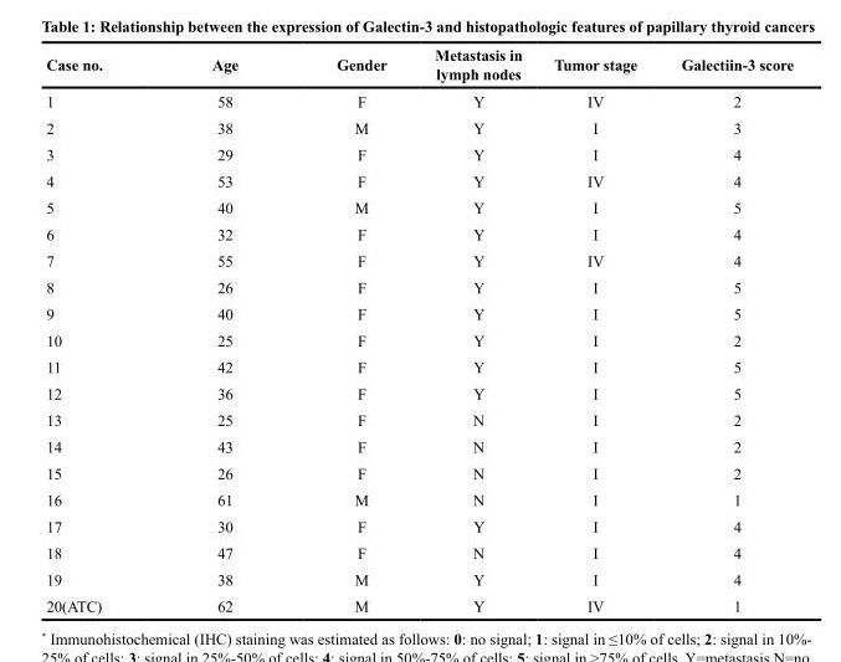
<table><thead><tr><td>Case no.</td><td>Age</td><td>Gender</td><td>Metastasis in lymph nodes</td><td>Tumor stage</td><td>Galectiin-3 score</td></tr></thead><tbody><tr><td>1</td><td>58</td><td>F</td><td>Y</td><td>IV</td><td>2</td></tr><tr><td>2</td><td>38</td><td>M</td><td>Y</td><td>I</td><td>3</td></tr><tr><td>3</td><td>29</td><td>F</td><td>Y</td><td>I</td><td>4</td></tr><tr><td>4</td><td>53</td><td>F</td><td>Y</td><td>IV</td><td>4</td></tr><tr><td>5</td><td>40</td><td>M</td><td>Y</td><td>I</td><td>5</td></tr><tr><td>6</td><td>32</td><td>F</td><td>Y</td><td>I</td><td>4</td></tr><tr><td>7</td><td>55</td><td>F</td><td>Y</td><td>IV</td><td>4</td></tr><tr><td>8</td><td>26</td><td>F</td><td>Y</td><td>I</td><td>5</td></tr><tr><td>9</td><td>40</td><td>F</td><td>Y</td><td>I</td><td>5</td></tr><tr><td>10</td><td>25</td><td>F</td><td>Y</td><td>I</td><td>2</td></tr><tr><td>11</td><td>42</td><td>F</td><td>Y</td><td>I</td><td>5</td></tr><tr><td>12</td><td>36</td><td>F</td><td>Y</td><td>I</td><td>5</td></tr><tr><td>13</td><td>25</td><td>F</td><td>N</td><td>I</td><td>2</td></tr><tr><td>14</td><td>43</td><td>F</td><td>N</td><td>I</td><td>2</td></tr><tr><td>15</td><td>26</td><td>F</td><td>N</td><td>I</td><td>2</td></tr><tr><td>16</td><td>61</td><td>M</td><td>N</td><td>I</td><td>1</td></tr><tr><td>17</td><td>30</td><td>F</td><td>Y</td><td>I</td><td>4</td></tr><tr><td>18</td><td>47</td><td>F</td><td>N</td><td>I</td><td>4</td></tr><tr><td>19</td><td>38</td><td>M</td><td>Y</td><td>I</td><td>4</td></tr><tr><td>20(ATC)</td><td>62</td><td>M</td><td>Y</td><td>IV</td><td>1</td></tr></tbody></table>